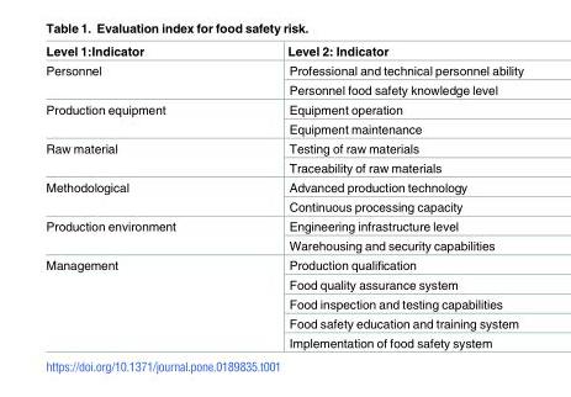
<table><thead><tr><td>Level 1:Indicator</td><td>Level 2: Indicator</td></tr></thead><tbody><tr><td rowspan="2">Personnel</td><td>Professional and technical personnel ability</td></tr><tr><td>Personnel food safety knowledge level</td></tr><tr><td rowspan="2">Production equipment</td><td>Equipment operation</td></tr><tr><td>Equipment maintenance</td></tr><tr><td rowspan="2">Raw material</td><td>Testing of raw materials</td></tr><tr><td>Traceability of raw materials</td></tr><tr><td rowspan="2">Methodological</td><td>Advanced production technology</td></tr><tr><td>Continuous processing capacity</td></tr><tr><td rowspan="2">Production environment</td><td>Engineering infrastructure level</td></tr><tr><td>Warehousing and security capabilities</td></tr><tr><td rowspan="5">Management</td><td>Production qualification</td></tr><tr><td>Food quality assurance system</td></tr><tr><td>Food inspection and testing capabilities</td></tr><tr><td>Food safety education and training system</td></tr><tr><td>Implementation of food safety system</td></tr></tbody></table>